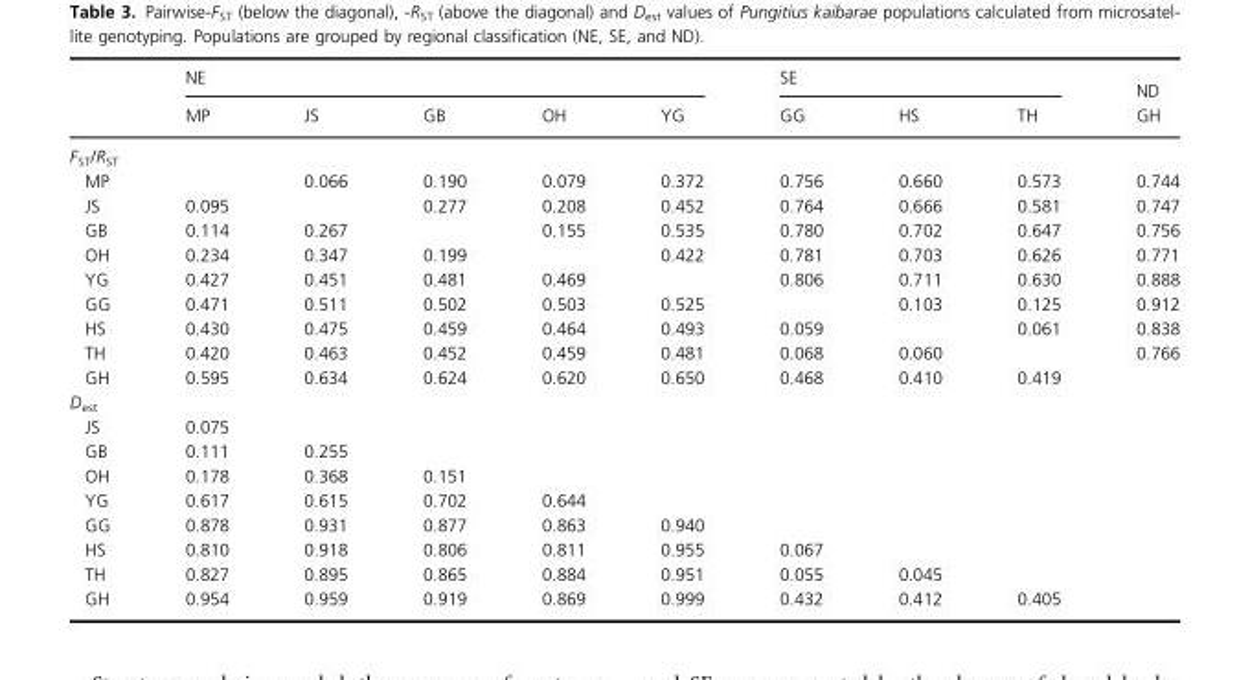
<table><thead><tr><td rowspan="2"></td><td colspan="5">NE</td><td colspan="3">SE</td><td rowspan="2">ND GH</td></tr><tr><td>MP</td><td>JS</td><td>GB</td><td>OH</td><td>YG</td><td>GG</td><td>HS</td><td>TH</td></tr></thead><tbody><tr><td colspan="10">F<sub>ST</sub>/R<sub>ST</sub></td></tr><tr><td>MP</td><td></td><td>0.066</td><td>0.190</td><td>0.079</td><td>0.372</td><td>0.756</td><td>0.660</td><td>0.573</td><td>0.744</td></tr><tr><td>JS</td><td>0.095</td><td></td><td>0.277</td><td>0.208</td><td>0.452</td><td>0.764</td><td>0.666</td><td>0.581</td><td>0.747</td></tr><tr><td>GB</td><td>0.114</td><td>0.267</td><td></td><td>0.155</td><td>0.535</td><td>0.780</td><td>0.702</td><td>0.647</td><td>0.756</td></tr><tr><td>OH</td><td>0.234</td><td>0.347</td><td>0.199</td><td></td><td>0.422</td><td>0.781</td><td>0.703</td><td>0.626</td><td>0.771</td></tr><tr><td>YG</td><td>0.427</td><td>0.451</td><td>0.481</td><td>0.469</td><td></td><td>0.806</td><td>0.711</td><td>0.630</td><td>0.888</td></tr><tr><td>GG</td><td>0.471</td><td>0.511</td><td>0.502</td><td>0.503</td><td>0.525</td><td></td><td>0.103</td><td>0.125</td><td>0.912</td></tr><tr><td>HS</td><td>0.430</td><td>0.475</td><td>0.459</td><td>0.464</td><td>0.493</td><td>0.059</td><td></td><td>0.061</td><td>0.838</td></tr><tr><td>TH</td><td>0.420</td><td>0.463</td><td>0.452</td><td>0.459</td><td>0.481</td><td>0.068</td><td>0.060</td><td></td><td>0.766</td></tr><tr><td>GH</td><td>0.595</td><td>0.634</td><td>0.624</td><td>0.620</td><td>0.650</td><td>0.468</td><td>0.410</td><td>0.419</td><td></td></tr><tr><td colspan="10">D<sub>est</sub></td></tr><tr><td>JS</td><td>0.075</td><td></td><td></td><td></td><td></td><td></td><td></td><td></td><td></td></tr><tr><td>GB</td><td>0.111</td><td>0.255</td><td></td><td></td><td></td><td></td><td></td><td></td><td></td></tr><tr><td>OH</td><td>0.178</td><td>0.368</td><td>0.151</td><td></td><td></td><td></td><td></td><td></td><td></td></tr><tr><td>YG</td><td>0.617</td><td>0.615</td><td>0.702</td><td>0.644</td><td></td><td></td><td></td><td></td><td></td></tr><tr><td>GG</td><td>0.878</td><td>0.931</td><td>0.877</td><td>0.863</td><td>0.940</td><td></td><td></td><td></td><td></td></tr><tr><td>HS</td><td>0.810</td><td>0.918</td><td>0.806</td><td>0.811</td><td>0.955</td><td>0.067</td><td></td><td></td><td></td></tr><tr><td>TH</td><td>0.827</td><td>0.895</td><td>0.865</td><td>0.884</td><td>0.951</td><td>0.055</td><td>0.045</td><td></td><td></td></tr><tr><td>GH</td><td>0.954</td><td>0.959</td><td>0.919</td><td>0.869</td><td>0.999</td><td>0.432</td><td>0.412</td><td>0.405</td><td></td></tr></tbody></table>